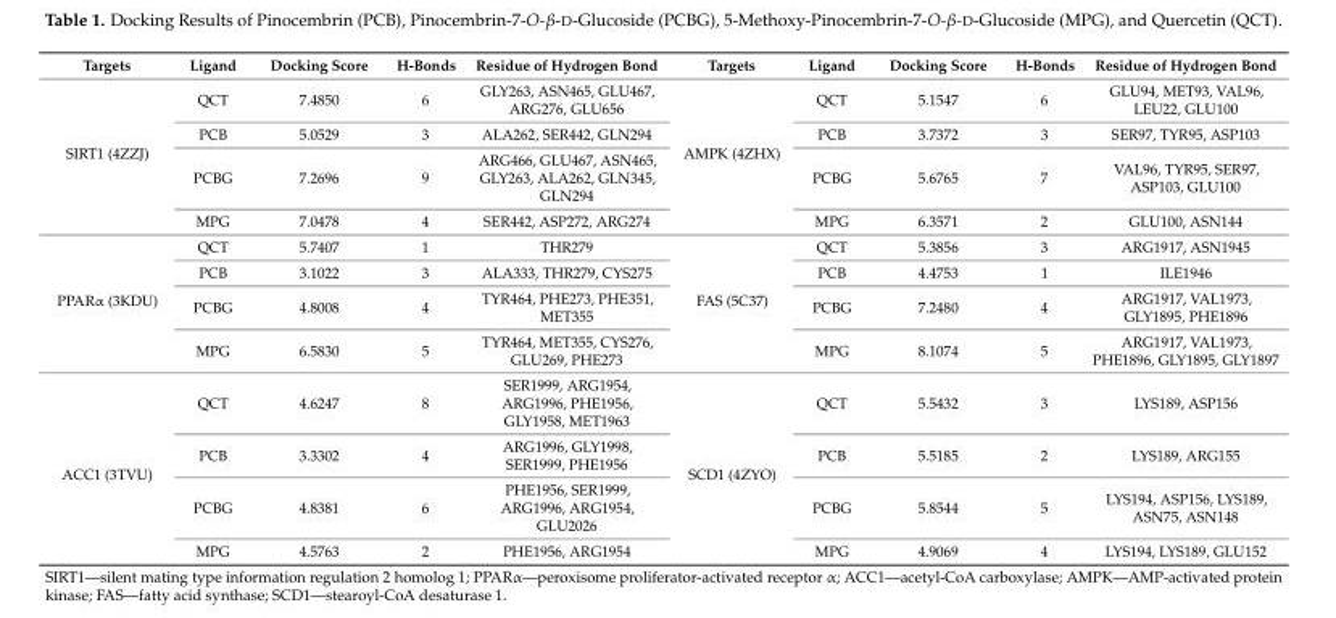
<table><thead><tr><td>Targets</td><td>Ligand</td><td>Docking Score</td><td>H-Bonds</td><td>Residue of Hydrogen Bond</td><td>Targets</td><td>Ligand</td><td>Docking Score</td><td>H-Bonds</td><td>Residue of Hydrogen Bond</td></tr></thead><tbody><tr><td rowspan="4">SIRT1 (4ZZJ)</td><td>QCT</td><td>7.4850</td><td>6</td><td>GLY263, ASN465, GLU467, ARG276, GLU656</td><td rowspan="4">AMPK (4ZHX)</td><td>QCT</td><td>5.1547</td><td>6</td><td>GLU94, MET93, VAL96, LEU22, GLU100</td></tr><tr><td>PCB</td><td>5.0529</td><td>3</td><td>ALA262, SER442, GLN294</td><td>PCB</td><td>3.7372</td><td>3</td><td>SER97, TYR95, ASP103</td></tr><tr><td>PCBG</td><td>7.2696</td><td>9</td><td>ARG466, GLU467, ASN465, GLY263, ALA262, GLN345, GLN294</td><td>PCBG</td><td>5.6765</td><td>7</td><td>VAL96, TYR95, SER97, ASP103, GLU100</td></tr><tr><td>MPG</td><td>7.0478</td><td>4</td><td>SER442, ASP272, ARG274</td><td>MPG</td><td>6.3571</td><td>2</td><td>GLU100, ASN144</td></tr><tr><td rowspan="4">PPARα (3KDU)</td><td>QCT</td><td>5.7407</td><td>1</td><td>THR279</td><td rowspan="4">FAS (5C37)</td><td>QCT</td><td>5.3856</td><td>3</td><td>ARG1917, ASN1945</td></tr><tr><td>PCB</td><td>3.1022</td><td>3</td><td>ALA333, THR279, CYS275</td><td>PCB</td><td>4.4753</td><td>1</td><td>ILE1946</td></tr><tr><td>PCBG</td><td>4.8008</td><td>4</td><td>TYR464, PHE273, PHE351, MET355</td><td>PCBG</td><td>7.2480</td><td>4</td><td>ARG1917, VAL1973, GLY1895, PHE1896</td></tr><tr><td>MPG</td><td>6.5830</td><td>5</td><td>TYR464, MET355, CYS276, GLU269, PHE273</td><td>MPG</td><td>8.1074</td><td>5</td><td>ARG1917, VAL1973, PHE1896, GLY1895, GLY1897</td></tr><tr><td rowspan="4">ACC1 (3TVU)</td><td>QCT</td><td>4.6247</td><td>8</td><td>SER1999, ARG1954, ARG1996, PHE1956, GLY1958, MET1963</td><td rowspan="4">SCD1 (4ZYO)</td><td>QCT</td><td>5.5432</td><td>3</td><td>LYS189, ASP156</td></tr><tr><td>PCB</td><td>3.3302</td><td>4</td><td>ARG1996, GLY1998, SER1999, PHE1956</td><td>PCB</td><td>5.5185</td><td>2</td><td>LYS189, ARG155</td></tr><tr><td>PCBG</td><td>4.8381</td><td>6</td><td>PHE1956, SER1999, ARG1996, ARG1954, GLU2026</td><td>PCBG</td><td>5.8544</td><td>5</td><td>LYS194, ASP156, LYS189, ASN75, ASN148</td></tr><tr><td>MPG</td><td>4.5763</td><td>2</td><td>PHE1956, ARG1954</td><td>MPG</td><td>4.9069</td><td>4</td><td>LYS194, LYS189, GLU152</td></tr></tbody></table>